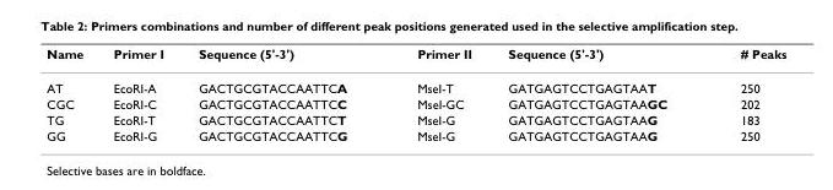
<table><thead><tr><td>Name</td><td>Primer I</td><td>Sequence (5&#x27;-3&#x27;)</td><td>Primer II</td><td>Sequence (5&#x27;-3&#x27;)</td><td># Peaks</td></tr></thead><tbody><tr><td>AT</td><td>EcoRI-A</td><td>GACTGCGTACCAATTCA</td><td>MseI-T</td><td>GATGAGTCCTGAGTAAT</td><td>250</td></tr><tr><td>CGC</td><td>EcoRI-C</td><td>GACTGCGTACCAATTCC</td><td>MseI-GC</td><td>GATGAGTCCTGAGTAAGC</td><td>202</td></tr><tr><td>TG</td><td>EcoRI-T</td><td>GACTGCGTACCAATTCT</td><td>MseI-G</td><td>GATGAGTCCTGAGTAAG</td><td>183</td></tr><tr><td>GG</td><td>EcoRI-G</td><td>GACTGCGTACCAATTCG</td><td>MseI-G</td><td>GATGAGTCCTGAGTAAG</td><td>250</td></tr></tbody></table>